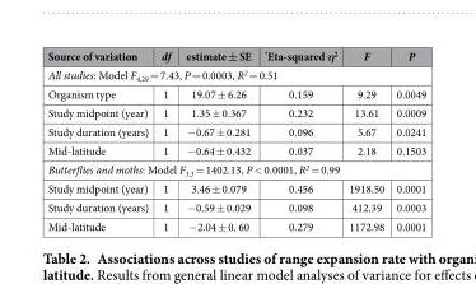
<table><thead><tr><td>Source of variation</td><td>df</td><td>estimate ± SE</td><td>*Eta-squared η<sup>2</sup></td><td>F</td><td>P</td></tr></thead><tbody><tr><td colspan="6">All studies: Model F<sub>4,29</sub> = 7.43, P = 0.0003, R<sup>2</sup> = 0.51</td></tr><tr><td>Organism type</td><td>1</td><td>19.07 ± 6.26</td><td>0.159</td><td>9.29</td><td>0.0049</td></tr><tr><td>Study midpoint (year)</td><td>1</td><td>1.35 ± 0.367</td><td>0.232</td><td>13.61</td><td>0.0009</td></tr><tr><td>Study duration (years)</td><td>1</td><td>− 0.67 ± 0.281</td><td>0.096</td><td>5.67</td><td>0.0241</td></tr><tr><td>Mid-latitude</td><td>1</td><td>− 0.64 ± 0.432</td><td>0.037</td><td>2.18</td><td>0.1503</td></tr><tr><td colspan="6">Butterflies and moths: Model F<sub>3,3</sub> = 1402.13, P &lt; 0.0001, R<sup>2</sup> = 0.99</td></tr><tr><td>Study midpoint (year)</td><td>1</td><td>3.46 ± 0.079</td><td>0.456</td><td>1918.50</td><td>0.0001</td></tr><tr><td>Study duration (years)</td><td>1</td><td>− 0.59 ± 0.029</td><td>0.098</td><td>412.39</td><td>0.0003</td></tr><tr><td>Mid-latitude</td><td>1</td><td>− 2.04 ± 0. 60</td><td>0.279</td><td>1172.98</td><td>0.0001</td></tr></tbody></table>